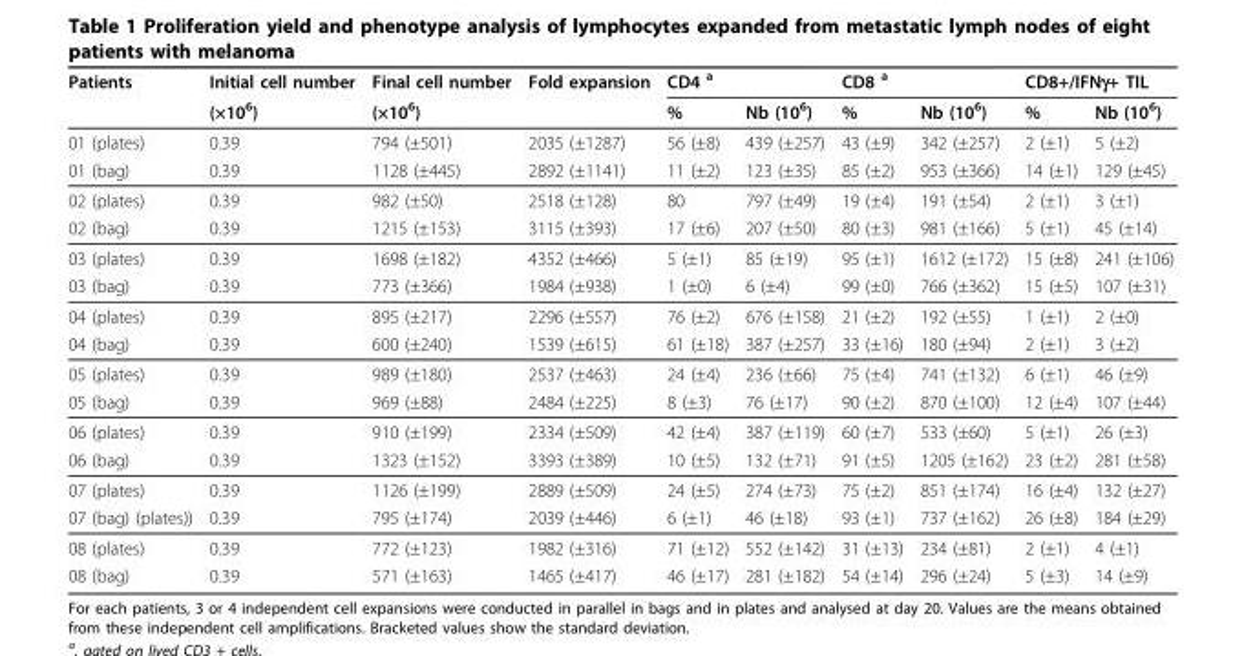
<table><thead><tr><td rowspan="2">Patients</td><td rowspan="2">Initial cell number (×10<sup>6</sup>)</td><td rowspan="2">Final cell number (×10<sup>6</sup>)</td><td rowspan="2">Fold expansion</td><td colspan="2">CD4 <sup>a</sup></td><td colspan="2">CD8 <sup>a</sup></td><td colspan="2">CD8+/IFNγ+ TIL</td></tr><tr><td>%</td><td>Nb (10<sup>6</sup>)</td><td>%</td><td>Nb (10<sup>6</sup>)</td><td>%</td><td>Nb (10<sup>6</sup>)</td></tr></thead><tbody><tr><td>01 (plates)</td><td>0.39</td><td>794 (±501)</td><td>2035 (±1287)</td><td>56 (±8)</td><td>439 (±257)</td><td>43 (±9)</td><td>342 (±257)</td><td>2 (±1)</td><td>5 (±2)</td></tr><tr><td>01 (bag)</td><td>0.39</td><td>1128 (±445)</td><td>2892 (±1141)</td><td>11 (±2)</td><td>123 (±35)</td><td>85 (±2)</td><td>953 (±366)</td><td>14 (±1)</td><td>129 (±45)</td></tr><tr><td>02 (plates)</td><td>0.39</td><td>982 (±50)</td><td>2518 (±128)</td><td>80</td><td>797 (±49)</td><td>19 (±4)</td><td>191 (±54)</td><td>2 (±1)</td><td>3 (±1)</td></tr><tr><td>02 (bag)</td><td>0.39</td><td>1215 (±153)</td><td>3115 (±393)</td><td>17 (±6)</td><td>207 (±50)</td><td>80 (±3)</td><td>981 (±166)</td><td>5 (±1)</td><td>45 (±14)</td></tr><tr><td>03 (plates)</td><td>0.39</td><td>1698 (±182)</td><td>4352 (±466)</td><td>5 (±1)</td><td>85 (±19)</td><td>95 (±1)</td><td>1612 (±172)</td><td>15 (±8)</td><td>241 (±106)</td></tr><tr><td>03 (bag)</td><td>0.39</td><td>773 (±366)</td><td>1984 (±938)</td><td>1 (±0)</td><td>6 (±4)</td><td>99 (±0)</td><td>766 (±362)</td><td>15 (±5)</td><td>107 (±31)</td></tr><tr><td>04 (plates)</td><td>0.39</td><td>895 (±217)</td><td>2296 (±557)</td><td>76 (±2)</td><td>676 (±158)</td><td>21 (±2)</td><td>192 (±55)</td><td>1 (±1)</td><td>2 (±0)</td></tr><tr><td>04 (bag)</td><td>0.39</td><td>600 (±240)</td><td>1539 (±615)</td><td>61 (±18)</td><td>387 (±257)</td><td>33 (±16)</td><td>180 (±94)</td><td>2 (±1)</td><td>3 (±2)</td></tr><tr><td>05 (plates)</td><td>0.39</td><td>989 (±180)</td><td>2537 (±463)</td><td>24 (±4)</td><td>236 (±66)</td><td>75 (±4)</td><td>741 (±132)</td><td>6 (±1)</td><td>46 (±9)</td></tr><tr><td>05 (bag)</td><td>0.39</td><td>969 (±88)</td><td>2484 (±225)</td><td>8 (±3)</td><td>76 (±17)</td><td>90 (±2)</td><td>870 (±100)</td><td>12 (±4)</td><td>107 (±44)</td></tr><tr><td>06 (plates)</td><td>0.39</td><td>910 (±199)</td><td>2334 (±509)</td><td>42 (±4)</td><td>387 (±119)</td><td>60 (±7)</td><td>533 (±60)</td><td>5 (±1)</td><td>26 (±3)</td></tr><tr><td>06 (bag)</td><td>0.39</td><td>1323 (±152)</td><td>3393 (±389)</td><td>10 (±5)</td><td>132 (±71)</td><td>91 (±5)</td><td>1205 (±162)</td><td>23 (±2)</td><td>281 (±58)</td></tr><tr><td>07 (plates)</td><td>0.39</td><td>1126 (±199)</td><td>2889 (±509)</td><td>24 (±5)</td><td>274 (±73)</td><td>75 (±2)</td><td>851 (±174)</td><td>16 (±4)</td><td>132 (±27)</td></tr><tr><td>07 (bag) (plates))</td><td>0.39</td><td>795 (±174)</td><td>2039 (±446)</td><td>6 (±1)</td><td>46 (±18)</td><td>93 (±1)</td><td>737 (±162)</td><td>26 (±8)</td><td>184 (±29)</td></tr><tr><td>08 (plates)</td><td>0.39</td><td>772 (±123)</td><td>1982 (±316)</td><td>71 (±12)</td><td>552 (±142)</td><td>31 (±13)</td><td>234 (±81)</td><td>2 (±1)</td><td>4 (±1)</td></tr><tr><td>08 (bag)</td><td>0.39</td><td>571 (±163)</td><td>1465 (±417)</td><td>46 (±17)</td><td>281 (±182)</td><td>54 (±14)</td><td>296 (±24)</td><td>5 (±3)</td><td>14 (±9)</td></tr></tbody></table>